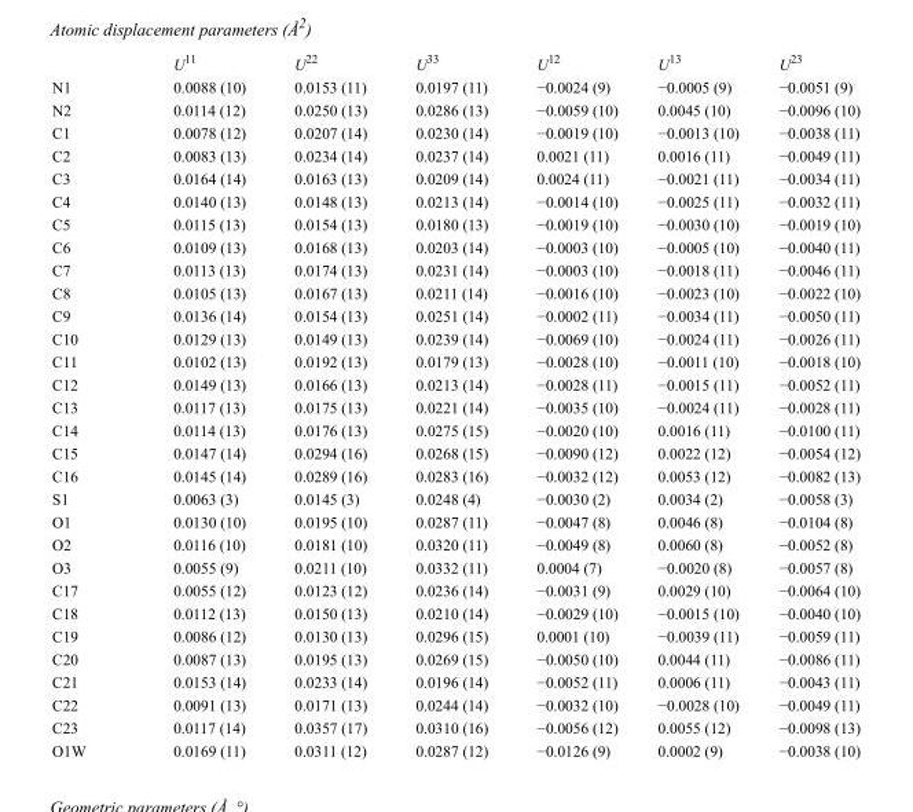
<table><thead><tr><td></td><td>U<sup>11</sup></td><td>U<sup>22</sup></td><td>U<sup>33</sup></td><td>U<sup>12</sup></td><td>U<sup>13</sup></td><td>U<sup>23</sup></td></tr></thead><tbody><tr><td>N1</td><td>0.0088 (10)</td><td>0.0153 (11)</td><td>0.0197 (11)</td><td>−0.0024 (9)</td><td>−0.0005 (9)</td><td>−0.0051 (9)</td></tr><tr><td>N2</td><td>0.0114 (12)</td><td>0.0250 (13)</td><td>0.0286 (13)</td><td>−0.0059 (10)</td><td>0.0045 (10)</td><td>−0.0096 (10)</td></tr><tr><td>C1</td><td>0.0078 (12)</td><td>0.0207 (14)</td><td>0.0230 (14)</td><td>−0.0019 (10)</td><td>−0.0013 (10)</td><td>−0.0038 (11)</td></tr><tr><td>C2</td><td>0.0083 (13)</td><td>0.0234 (14)</td><td>0.0237 (14)</td><td>0.0021 (11)</td><td>0.0016 (11)</td><td>−0.0049 (11)</td></tr><tr><td>C3</td><td>0.0164 (14)</td><td>0.0163 (13)</td><td>0.0209 (14)</td><td>0.0024 (11)</td><td>−0.0021 (11)</td><td>−0.0034 (11)</td></tr><tr><td>C4</td><td>0.0140 (13)</td><td>0.0148 (13)</td><td>0.0213 (14)</td><td>−0.0014 (10)</td><td>−0.0025 (11)</td><td>−0.0032 (11)</td></tr><tr><td>C5</td><td>0.0115 (13)</td><td>0.0154 (13)</td><td>0.0180 (13)</td><td>−0.0019 (10)</td><td>−0.0030 (10)</td><td>−0.0019 (10)</td></tr><tr><td>C6</td><td>0.0109 (13)</td><td>0.0168 (13)</td><td>0.0203 (14)</td><td>−0.0003 (10)</td><td>−0.0005 (10)</td><td>−0.0040 (11)</td></tr><tr><td>C7</td><td>0.0113 (13)</td><td>0.0174 (13)</td><td>0.0231 (14)</td><td>−0.0003 (10)</td><td>−0.0018 (11)</td><td>−0.0046 (11)</td></tr><tr><td>C8</td><td>0.0105 (13)</td><td>0.0167 (13)</td><td>0.0211 (14)</td><td>−0.0016 (10)</td><td>−0.0023 (10)</td><td>−0.0022 (10)</td></tr><tr><td>C9</td><td>0.0136 (14)</td><td>0.0154 (13)</td><td>0.0251 (14)</td><td>−0.0002 (11)</td><td>−0.0034 (11)</td><td>−0.0050 (11)</td></tr><tr><td>C10</td><td>0.0129 (13)</td><td>0.0149 (13)</td><td>0.0239 (14)</td><td>−0.0069 (10)</td><td>−0.0024 (11)</td><td>−0.0026 (11)</td></tr><tr><td>C11</td><td>0.0102 (13)</td><td>0.0192 (13)</td><td>0.0179 (13)</td><td>−0.0028 (10)</td><td>−0.0011 (10)</td><td>−0.0018 (10)</td></tr><tr><td>C12</td><td>0.0149 (13)</td><td>0.0166 (13)</td><td>0.0213 (14)</td><td>−0.0028 (11)</td><td>−0.0015 (11)</td><td>−0.0052 (11)</td></tr><tr><td>C13</td><td>0.0117 (13)</td><td>0.0175 (13)</td><td>0.0221 (14)</td><td>−0.0035 (10)</td><td>−0.0024 (11)</td><td>−0.0028 (11)</td></tr><tr><td>C14</td><td>0.0114 (13)</td><td>0.0176 (13)</td><td>0.0275 (15)</td><td>−0.0020 (10)</td><td>0.0016 (11)</td><td>−0.0100 (11)</td></tr><tr><td>C15</td><td>0.0147 (14)</td><td>0.0294 (16)</td><td>0.0268 (15)</td><td>−0.0090 (12)</td><td>0.0022 (12)</td><td>−0.0054 (12)</td></tr><tr><td>C16</td><td>0.0145 (14)</td><td>0.0289 (16)</td><td>0.0283 (16)</td><td>−0.0032 (12)</td><td>0.0053 (12)</td><td>−0.0082 (13)</td></tr><tr><td>S1</td><td>0.0063 (3)</td><td>0.0145 (3)</td><td>0.0248 (4)</td><td>−0.0030 (2)</td><td>0.0034 (2)</td><td>−0.0058 (3)</td></tr><tr><td>O1</td><td>0.0130 (10)</td><td>0.0195 (10)</td><td>0.0287 (11)</td><td>−0.0047 (8)</td><td>0.0046 (8)</td><td>−0.0104 (8)</td></tr><tr><td>O2</td><td>0.0116 (10)</td><td>0.0181 (10)</td><td>0.0320 (11)</td><td>−0.0049 (8)</td><td>0.0060 (8)</td><td>−0.0052 (8)</td></tr><tr><td>O3</td><td>0.0055 (9)</td><td>0.0211 (10)</td><td>0.0332 (11)</td><td>0.0004 (7)</td><td>−0.0020 (8)</td><td>−0.0057 (8)</td></tr><tr><td>C17</td><td>0.0055 (12)</td><td>0.0123 (12)</td><td>0.0236 (14)</td><td>−0.0031 (9)</td><td>0.0029 (10)</td><td>−0.0064 (10)</td></tr><tr><td>C18</td><td>0.0112 (13)</td><td>0.0150 (13)</td><td>0.0210 (14)</td><td>−0.0029 (10)</td><td>−0.0015 (10)</td><td>−0.0040 (10)</td></tr><tr><td>C19</td><td>0.0086 (12)</td><td>0.0130 (13)</td><td>0.0296 (15)</td><td>0.0001 (10)</td><td>−0.0039 (11)</td><td>−0.0059 (11)</td></tr><tr><td>C20</td><td>0.0087 (13)</td><td>0.0195 (13)</td><td>0.0269 (15)</td><td>−0.0050 (10)</td><td>0.0044 (11)</td><td>−0.0086 (11)</td></tr><tr><td>C21</td><td>0.0153 (14)</td><td>0.0233 (14)</td><td>0.0196 (14)</td><td>−0.0052 (11)</td><td>0.0006 (11)</td><td>−0.0043 (11)</td></tr><tr><td>C22</td><td>0.0091 (13)</td><td>0.0171 (13)</td><td>0.0244 (14)</td><td>−0.0032 (10)</td><td>−0.0028 (10)</td><td>−0.0049 (11)</td></tr><tr><td>C23</td><td>0.0117 (14)</td><td>0.0357 (17)</td><td>0.0310 (16)</td><td>−0.0056 (12)</td><td>0.0055 (12)</td><td>−0.0098 (13)</td></tr><tr><td>O1W</td><td>0.0169 (11)</td><td>0.0311 (12)</td><td>0.0287 (12)</td><td>−0.0126 (9)</td><td>0.0002 (9)</td><td>−0.0038 (10)</td></tr></tbody></table>